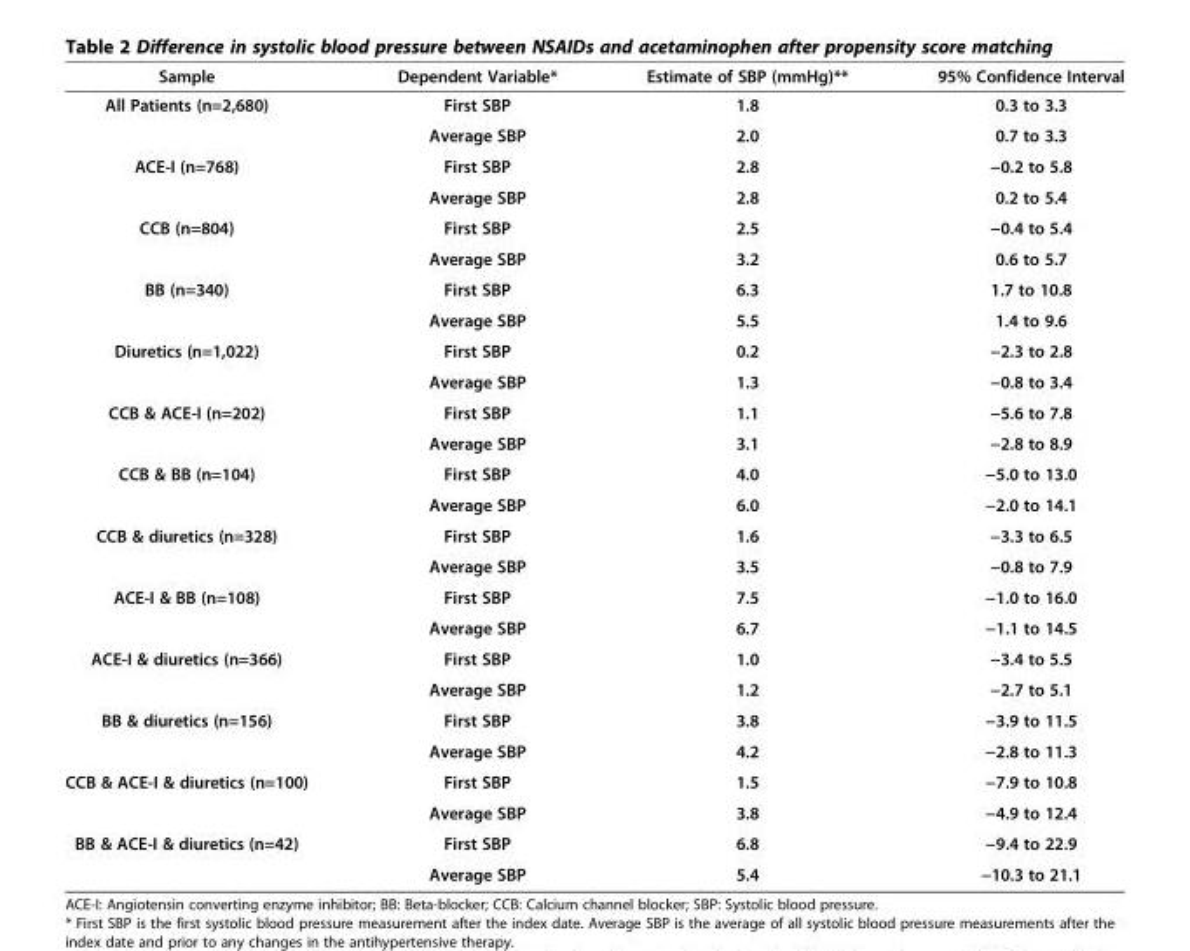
<table><thead><tr><td>Sample</td><td>Dependent Variable*</td><td>Estimate of SBP (mmHg)**</td><td>95% Confidence Interval</td></tr></thead><tbody><tr><td rowspan="2">All Patients (n=2,680)</td><td>First SBP</td><td>1.8</td><td>0.3 to 3.3</td></tr><tr><td>Average SBP</td><td>2.0</td><td>0.7 to 3.3</td></tr><tr><td rowspan="2">ACE-I (n=768)</td><td>First SBP</td><td>2.8</td><td>−0.2 to 5.8</td></tr><tr><td>Average SBP</td><td>2.8</td><td>0.2 to 5.4</td></tr><tr><td rowspan="2">CCB (n=804)</td><td>First SBP</td><td>2.5</td><td>−0.4 to 5.4</td></tr><tr><td>Average SBP</td><td>3.2</td><td>0.6 to 5.7</td></tr><tr><td rowspan="2">BB (n=340)</td><td>First SBP</td><td>6.3</td><td>1.7 to 10.8</td></tr><tr><td>Average SBP</td><td>5.5</td><td>1.4 to 9.6</td></tr><tr><td rowspan="2">Diuretics (n=1,022)</td><td>First SBP</td><td>0.2</td><td>−2.3 to 2.8</td></tr><tr><td>Average SBP</td><td>1.3</td><td>−0.8 to 3.4</td></tr><tr><td rowspan="2">CCB &amp; ACE-I (n=202)</td><td>First SBP</td><td>1.1</td><td>−5.6 to 7.8</td></tr><tr><td>Average SBP</td><td>3.1</td><td>−2.8 to 8.9</td></tr><tr><td rowspan="2">CCB &amp; BB (n=104)</td><td>First SBP</td><td>4.0</td><td>−5.0 to 13.0</td></tr><tr><td>Average SBP</td><td>6.0</td><td>−2.0 to 14.1</td></tr><tr><td rowspan="2">CCB &amp; diuretics (n=328)</td><td>First SBP</td><td>1.6</td><td>−3.3 to 6.5</td></tr><tr><td>Average SBP</td><td>3.5</td><td>−0.8 to 7.9</td></tr><tr><td rowspan="2">ACE-I &amp; BB (n=108)</td><td>First SBP</td><td>7.5</td><td>−1.0 to 16.0</td></tr><tr><td>Average SBP</td><td>6.7</td><td>−1.1 to 14.5</td></tr><tr><td rowspan="2">ACE-I &amp; diuretics (n=366)</td><td>First SBP</td><td>1.0</td><td>−3.4 to 5.5</td></tr><tr><td>Average SBP</td><td>1.2</td><td>−2.7 to 5.1</td></tr><tr><td rowspan="2">BB &amp; diuretics (n=156)</td><td>First SBP</td><td>3.8</td><td>−3.9 to 11.5</td></tr><tr><td>Average SBP</td><td>4.2</td><td>−2.8 to 11.3</td></tr><tr><td rowspan="2">CCB &amp; ACE-I &amp; diuretics (n=100)</td><td>First SBP</td><td>1.5</td><td>−7.9 to 10.8</td></tr><tr><td>Average SBP</td><td>3.8</td><td>−4.9 to 12.4</td></tr><tr><td rowspan="2">BB &amp; ACE-I &amp; diuretics (n=42)</td><td>First SBP</td><td>6.8</td><td>−9.4 to 22.9</td></tr><tr><td>Average SBP</td><td>5.4</td><td>−10.3 to 21.1</td></tr></tbody></table>